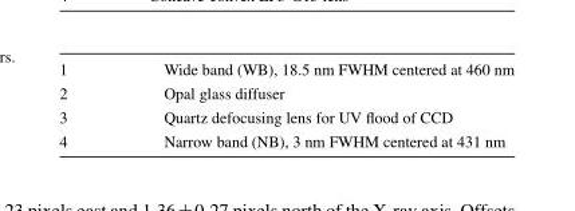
<table><tbody><tr><td>1</td><td>Wide band (WB), 18.5 nm FWHM centered at 460 nm</td></tr><tr><td>2</td><td>Opal glass diffuser</td></tr><tr><td>3</td><td>Quartz defocusing lens for UV flood of CCD</td></tr><tr><td>4</td><td>Narrow band (NB), 3 nm FWHM centered at 431 nm</td></tr></tbody></table>